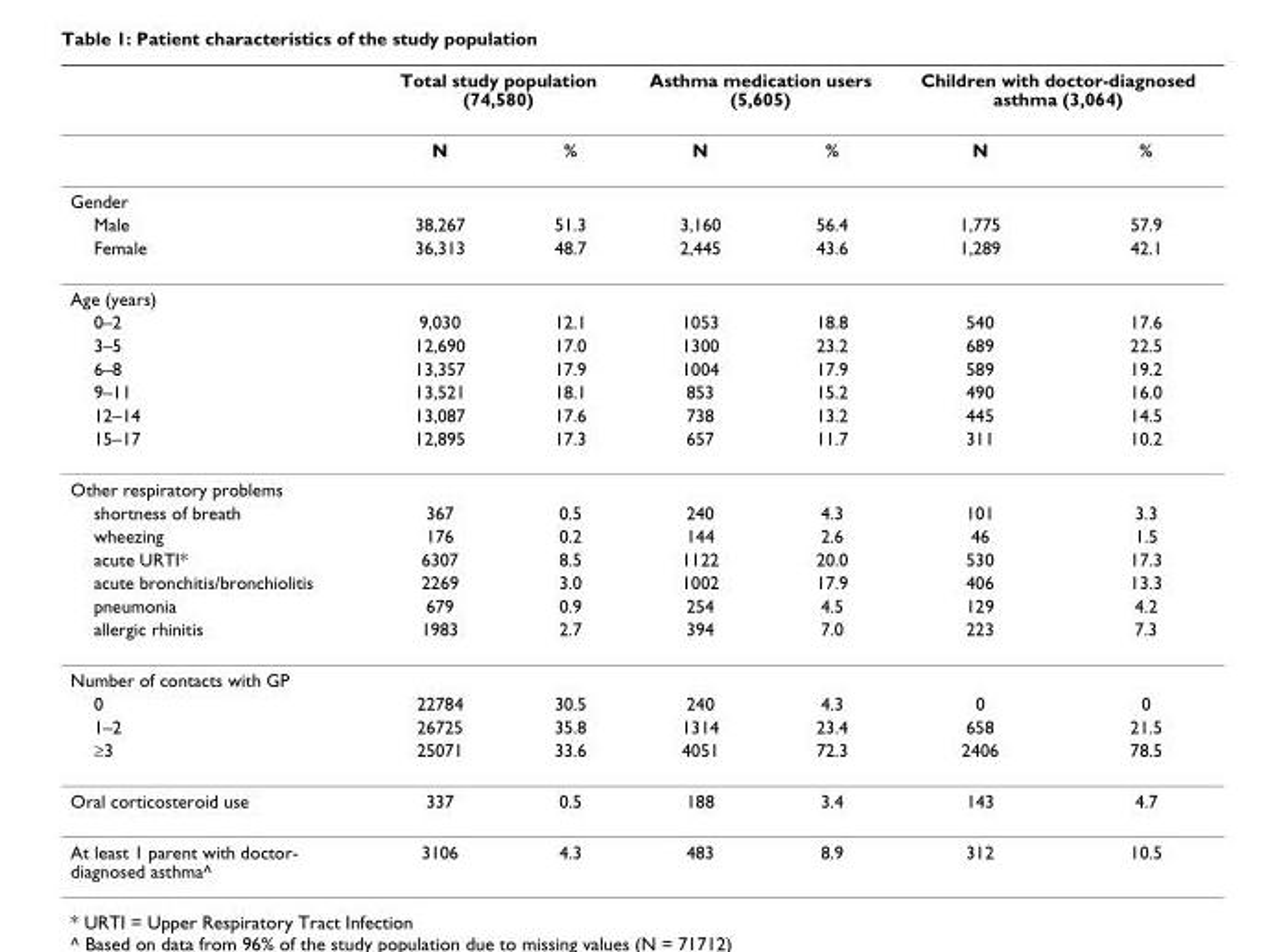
<table><thead><tr><td rowspan="2"></td><td colspan="2">Total study population (74,580)</td><td colspan="2">Asthma medication users (5,605)</td><td colspan="2">Children with doctor-diagnosed asthma (3,064)</td></tr><tr><td>N</td><td>%</td><td>N</td><td>%</td><td>N</td><td>%</td></tr></thead><tbody><tr><td colspan="7">Gender</td></tr><tr><td>Male</td><td>38,267</td><td>51.3</td><td>3,160</td><td>56.4</td><td>1,775</td><td>57.9</td></tr><tr><td>Female</td><td>36,313</td><td>48.7</td><td>2,445</td><td>43.6</td><td>1,289</td><td>42.1</td></tr><tr><td colspan="7">Age (years)</td></tr><tr><td>0–2</td><td>9,030</td><td>12.1</td><td>1053</td><td>18.8</td><td>540</td><td>17.6</td></tr><tr><td>3–5</td><td>12,690</td><td>17.0</td><td>1300</td><td>23.2</td><td>689</td><td>22.5</td></tr><tr><td>6–8</td><td>13,357</td><td>17.9</td><td>1004</td><td>17.9</td><td>589</td><td>19.2</td></tr><tr><td>9–11</td><td>13,521</td><td>18.1</td><td>853</td><td>15.2</td><td>490</td><td>16.0</td></tr><tr><td>12–14</td><td>13,087</td><td>17.6</td><td>738</td><td>13.2</td><td>445</td><td>14.5</td></tr><tr><td>15–17</td><td>12,895</td><td>17.3</td><td>657</td><td>11.7</td><td>311</td><td>10.2</td></tr><tr><td colspan="7">Other respiratory problems</td></tr><tr><td>shortness of breath</td><td>367</td><td>0.5</td><td>240</td><td>4.3</td><td>101</td><td>3.3</td></tr><tr><td>wheezing</td><td>176</td><td>0.2</td><td>144</td><td>2.6</td><td>46</td><td>1.5</td></tr><tr><td>acute URTI*</td><td>6307</td><td>8.5</td><td>1122</td><td>20.0</td><td>530</td><td>17.3</td></tr><tr><td>acute bronchitis/bronchiolitis</td><td>2269</td><td>3.0</td><td>1002</td><td>17.9</td><td>406</td><td>13.3</td></tr><tr><td>pneumonia</td><td>679</td><td>0.9</td><td>254</td><td>4.5</td><td>129</td><td>4.2</td></tr><tr><td>allergic rhinitis</td><td>1983</td><td>2.7</td><td>394</td><td>7.0</td><td>223</td><td>7.3</td></tr><tr><td colspan="7">Number of contacts with GP</td></tr><tr><td>0</td><td>22784</td><td>30.5</td><td>240</td><td>4.3</td><td>0</td><td>0</td></tr><tr><td>1–2</td><td>26725</td><td>35.8</td><td>1314</td><td>23.4</td><td>658</td><td>21.5</td></tr><tr><td>≥3</td><td>25071</td><td>33.6</td><td>4051</td><td>72.3</td><td>2406</td><td>78.5</td></tr><tr><td>Oral corticosteroid use</td><td>337</td><td>0.5</td><td>188</td><td>3.4</td><td>143</td><td>4.7</td></tr><tr><td>At least 1 parent with doctor- diagnosed asthma^</td><td>3106</td><td>4.3</td><td>483</td><td>8.9</td><td>312</td><td>10.5</td></tr></tbody></table>